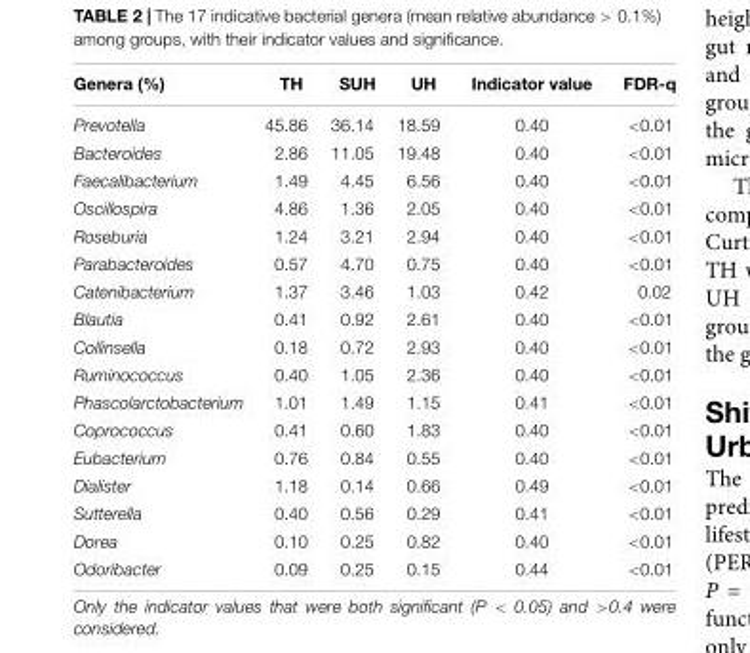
<table><thead><tr><td>Genera (%)</td><td>TH</td><td>SUH</td><td>UH</td><td>Indicator value</td><td>FDR-q</td></tr></thead><tbody><tr><td>Prevotella</td><td>45.86</td><td>36.14</td><td>18.59</td><td>0.40</td><td>&lt;0.01</td></tr><tr><td>Bacteroides</td><td>2.86</td><td>11.05</td><td>19.48</td><td>0.40</td><td>&lt;0.01</td></tr><tr><td>Faecalibacterium</td><td>1.49</td><td>4.45</td><td>6.56</td><td>0.40</td><td>&lt;0.01</td></tr><tr><td>Oscillospira</td><td>4.86</td><td>1.36</td><td>2.05</td><td>0.40</td><td>&lt;0.01</td></tr><tr><td>Roseburia</td><td>1.24</td><td>3.21</td><td>2.94</td><td>0.40</td><td>&lt;0.01</td></tr><tr><td>Parabacteroides</td><td>0.57</td><td>4.70</td><td>0.75</td><td>0.40</td><td>&lt;0.01</td></tr><tr><td>Catenibacterium</td><td>1.37</td><td>3.46</td><td>1.03</td><td>0.42</td><td>0.02</td></tr><tr><td>Blautia</td><td>0.41</td><td>0.92</td><td>2.61</td><td>0.40</td><td>&lt;0.01</td></tr><tr><td>Collinsella</td><td>0.18</td><td>0.72</td><td>2.93</td><td>0.40</td><td>&lt;0.01</td></tr><tr><td>Ruminococcus</td><td>0.40</td><td>1.05</td><td>2.36</td><td>0.40</td><td>&lt;0.01</td></tr><tr><td>Phascolarctobacterium</td><td>1.01</td><td>1.49</td><td>1.15</td><td>0.41</td><td>&lt;0.01</td></tr><tr><td>Coprococcus</td><td>0.41</td><td>0.60</td><td>1.83</td><td>0.40</td><td>&lt;0.01</td></tr><tr><td>Eubacterium</td><td>0.76</td><td>0.84</td><td>0.55</td><td>0.40</td><td>&lt;0.01</td></tr><tr><td>Dialister</td><td>1.18</td><td>0.14</td><td>0.66</td><td>0.49</td><td>&lt;0.01</td></tr><tr><td>Sutterella</td><td>0.40</td><td>0.56</td><td>0.29</td><td>0.41</td><td>&lt;0.01</td></tr><tr><td>Dorea</td><td>0.10</td><td>0.25</td><td>0.82</td><td>0.40</td><td>&lt;0.01</td></tr><tr><td>Odoribacter</td><td>0.09</td><td>0.25</td><td>0.15</td><td>0.44</td><td>&lt;0.01</td></tr></tbody></table>